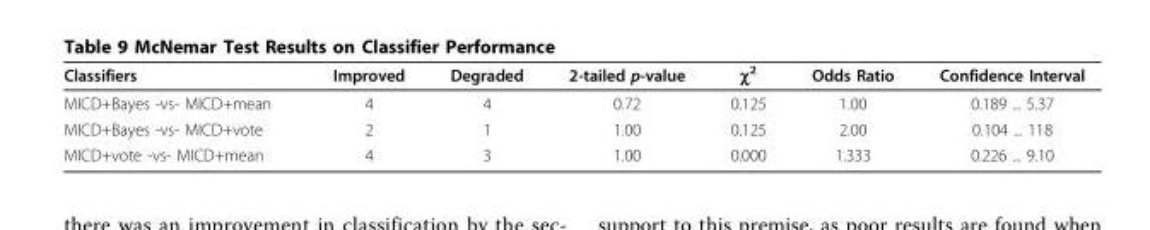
<table><thead><tr><td>Classifiers</td><td>Improved</td><td>Degraded</td><td>2-tailed p-value</td><td>χ<sup>2</sup></td><td>Odds Ratio</td><td>Confidence Interval</td></tr></thead><tbody><tr><td>MICD+Bayes -vs- MICD+mean</td><td>4</td><td>4</td><td>0.72</td><td>0.125</td><td>1.00</td><td>0.189 ... 5.37</td></tr><tr><td>MICD+Bayes -vs- MICD+vote</td><td>2</td><td>1</td><td>1.00</td><td>0.125</td><td>2.00</td><td>0.104 ... 118</td></tr><tr><td>MICD+vote -vs- MICD+mean</td><td>4</td><td>3</td><td>1.00</td><td>0.000</td><td>1.333</td><td>0.226 ... 9.10</td></tr></tbody></table>